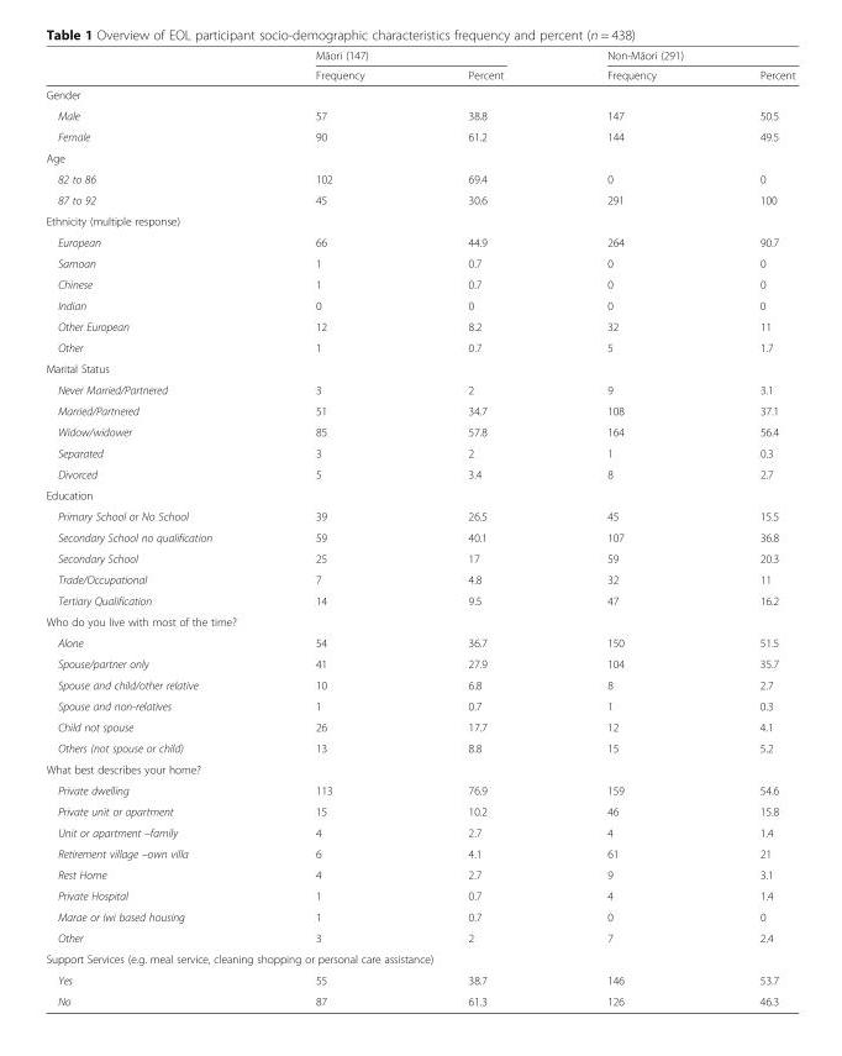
<table><thead><tr><td rowspan="2"></td><td colspan="2">Māori (147)</td><td colspan="2">Non-Māori (291)</td></tr><tr><td>Frequency</td><td>Percent</td><td>Frequency</td><td>Percent</td></tr></thead><tbody><tr><td colspan="5">Gender</td></tr><tr><td>Male</td><td>57</td><td>38.8</td><td>147</td><td>50.5</td></tr><tr><td>Female</td><td>90</td><td>61.2</td><td>144</td><td>49.5</td></tr><tr><td colspan="5">Age</td></tr><tr><td>82 to 86</td><td>102</td><td>69.4</td><td>0</td><td>0</td></tr><tr><td>87 to 92</td><td>45</td><td>30.6</td><td>291</td><td>100</td></tr><tr><td colspan="5">Ethnicity (multiple response)</td></tr><tr><td>European</td><td>66</td><td>44.9</td><td>264</td><td>90.7</td></tr><tr><td>Samoan</td><td>1</td><td>0.7</td><td>0</td><td>0</td></tr><tr><td>Chinese</td><td>1</td><td>0.7</td><td>0</td><td>0</td></tr><tr><td>Indian</td><td>0</td><td>0</td><td>0</td><td>0</td></tr><tr><td>Other European</td><td>12</td><td>8.2</td><td>32</td><td>11</td></tr><tr><td>Other</td><td>1</td><td>0.7</td><td>5</td><td>1.7</td></tr><tr><td colspan="5">Marital Status</td></tr><tr><td>Never Married/Partnered</td><td>3</td><td>2</td><td>9</td><td>3.1</td></tr><tr><td>Married/Partnered</td><td>51</td><td>34.7</td><td>108</td><td>37.1</td></tr><tr><td>Widow/widower</td><td>85</td><td>57.8</td><td>164</td><td>56.4</td></tr><tr><td>Separated</td><td>3</td><td>2</td><td>1</td><td>0.3</td></tr><tr><td>Divorced</td><td>5</td><td>3.4</td><td>8</td><td>2.7</td></tr><tr><td colspan="5">Education</td></tr><tr><td>Primary School or No School</td><td>39</td><td>26.5</td><td>45</td><td>15.5</td></tr><tr><td>Secondary School no qualification</td><td>59</td><td>40.1</td><td>107</td><td>36.8</td></tr><tr><td>Secondary School</td><td>25</td><td>17</td><td>59</td><td>20.3</td></tr><tr><td>Trade/Occupational</td><td>7</td><td>4.8</td><td>32</td><td>11</td></tr><tr><td>Tertiary Qualification</td><td>14</td><td>9.5</td><td>47</td><td>16.2</td></tr><tr><td colspan="5">Who do you live with most of the time?</td></tr><tr><td>Alone</td><td>54</td><td>36.7</td><td>150</td><td>51.5</td></tr><tr><td>Spouse/partner only</td><td>41</td><td>27.9</td><td>104</td><td>35.7</td></tr><tr><td>Spouse and child/other relative</td><td>10</td><td>6.8</td><td>8</td><td>2.7</td></tr><tr><td>Spouse and non-relatives</td><td>1</td><td>0.7</td><td>1</td><td>0.3</td></tr><tr><td>Child not spouse</td><td>26</td><td>17.7</td><td>12</td><td>4.1</td></tr><tr><td>Others (not spouse or child)</td><td>13</td><td>8.8</td><td>15</td><td>5.2</td></tr><tr><td colspan="5">What best describes your home?</td></tr><tr><td>Private dwelling</td><td>113</td><td>76.9</td><td>159</td><td>54.6</td></tr><tr><td>Private unit or apartment</td><td>15</td><td>10.2</td><td>46</td><td>15.8</td></tr><tr><td>Unit or apartment –family</td><td>4</td><td>2.7</td><td>4</td><td>1.4</td></tr><tr><td>Retirement village –own villa</td><td>6</td><td>4.1</td><td>61</td><td>21</td></tr><tr><td>Rest Home</td><td>4</td><td>2.7</td><td>9</td><td>3.1</td></tr><tr><td>Private Hospital</td><td>1</td><td>0.7</td><td>4</td><td>1.4</td></tr><tr><td>Marae or Iwi based housing</td><td>1</td><td>0.7</td><td>0</td><td>0</td></tr><tr><td>Other</td><td>3</td><td>2</td><td>7</td><td>2.4</td></tr><tr><td colspan="5">Support Services (e.g. meal service, cleaning shopping or personal care assistance)</td></tr><tr><td>Yes</td><td>55</td><td>38.7</td><td>146</td><td>53.7</td></tr><tr><td>No</td><td>87</td><td>61.3</td><td>126</td><td>46.3</td></tr></tbody></table>